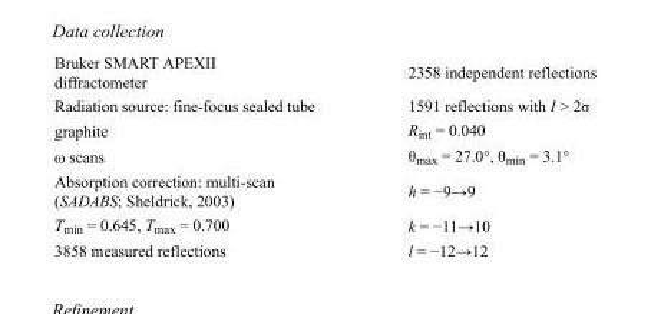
<table><tbody><tr><td>Bruker SMART APEXII diffractometer</td><td>2358 independent reflections</td></tr><tr><td>Radiation source: fine-focus sealed tube</td><td>1591 reflections with I &gt; 2σ</td></tr><tr><td>graphite</td><td>R<sub>int</sub> = 0.040</td></tr><tr><td>ω scans</td><td>θ<sub>max</sub> = 27.0°, θ<sub>min</sub> = 3.1°</td></tr><tr><td>Absorption correction: multi-scan (SADABS; Sheldrick, 2003)</td><td>h = −9→9</td></tr><tr><td>T<sub>min</sub> = 0.645, T<sub>max</sub> = 0.700</td><td>k = −11→10</td></tr><tr><td>3858 measured reflections</td><td>l = −12→12</td></tr></tbody></table>